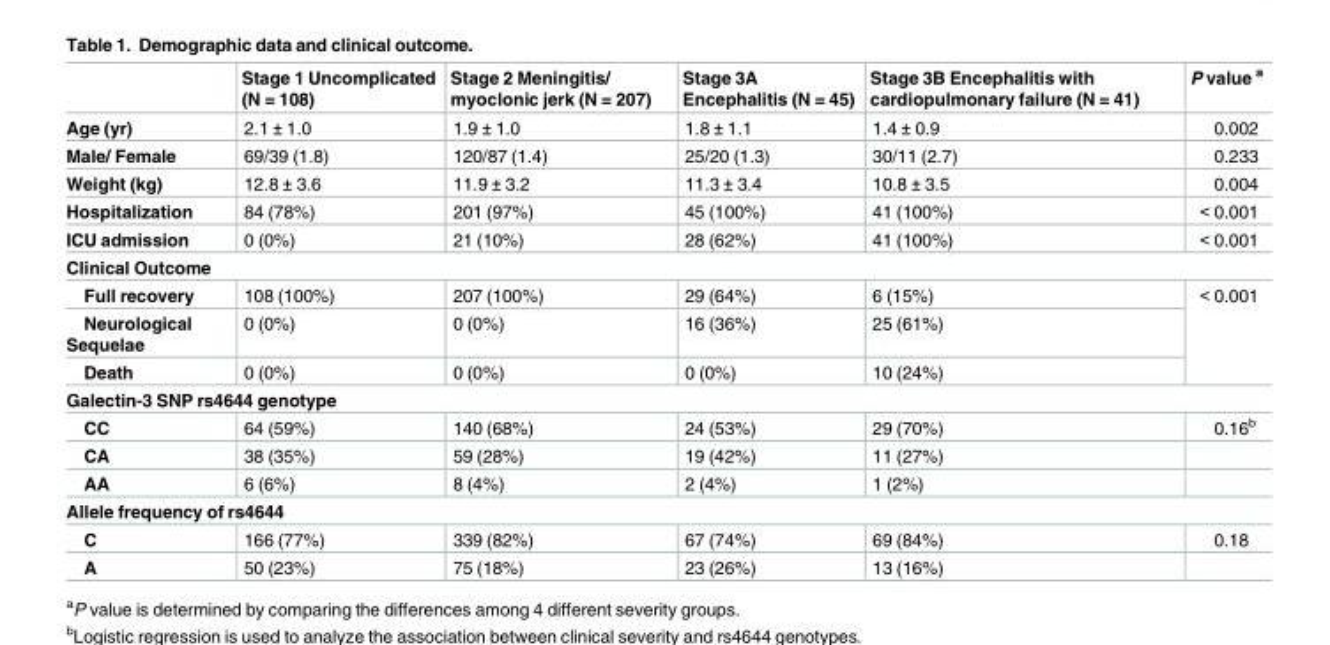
<table><thead><tr><td></td><td>Stage 1 Uncomplicated (N = 108)</td><td>Stage 2 Meningitis/ myoclonic jerk (N = 207)</td><td>Stage 3A Encephalitis (N = 45)</td><td>Stage 3B Encephalitis with cardiopulmonary failure (N = 41)</td><td>P value <sup>a</sup></td></tr></thead><tbody><tr><td>Age (yr)</td><td>2.1 ± 1.0</td><td>1.9 ± 1.0</td><td>1.8 ± 1.1</td><td>1.4 ± 0.9</td><td>0.002</td></tr><tr><td>Male/ Female</td><td>69/39 (1.8)</td><td>120/87 (1.4)</td><td>25/20 (1.3)</td><td>30/11 (2.7)</td><td>0.233</td></tr><tr><td>Weight (kg)</td><td>12.8 ± 3.6</td><td>11.9 ± 3.2</td><td>11.3 ± 3.4</td><td>10.8 ± 3.5</td><td>0.004</td></tr><tr><td>Hospitalization</td><td>84 (78%)</td><td>201 (97%)</td><td>45 (100%)</td><td>41 (100%)</td><td>&lt; 0.001</td></tr><tr><td>ICU admission</td><td>0 (0%)</td><td>21 (10%)</td><td>28 (62%)</td><td>41 (100%)</td><td>&lt; 0.001</td></tr><tr><td colspan="6">Clinical Outcome</td></tr><tr><td>Full recovery</td><td>108 (100%)</td><td>207 (100%)</td><td>29 (64%)</td><td>6 (15%)</td><td rowspan="3">&lt; 0.001</td></tr><tr><td>Neurological Sequelae</td><td>0 (0%)</td><td>0 (0%)</td><td>16 (36%)</td><td>25 (61%)</td></tr><tr><td>Death</td><td>0 (0%)</td><td>0 (0%)</td><td>0 (0%)</td><td>10 (24%)</td></tr><tr><td colspan="6">Galectin-3 SNP rs4644 genotype</td></tr><tr><td>CC</td><td>64 (59%)</td><td>140 (68%)</td><td>24 (53%)</td><td>29 (70%)</td><td>0.16<sup>b</sup></td></tr><tr><td>CA</td><td>38 (35%)</td><td>59 (28%)</td><td>19 (42%)</td><td>11 (27%)</td><td></td></tr><tr><td>AA</td><td>6 (6%)</td><td>8 (4%)</td><td>2 (4%)</td><td>1 (2%)</td><td></td></tr><tr><td colspan="6">Allele frequency of rs4644</td></tr><tr><td>C</td><td>166 (77%)</td><td>339 (82%)</td><td>67 (74%)</td><td>69 (84%)</td><td>0.18</td></tr><tr><td>A</td><td>50 (23%)</td><td>75 (18%)</td><td>23 (26%)</td><td>13 (16%)</td><td></td></tr></tbody></table>